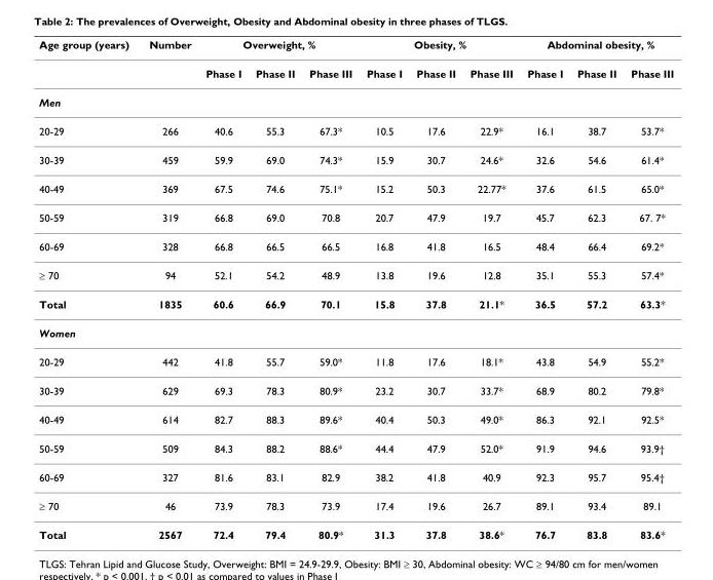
<table><thead><tr><td rowspan="2">Age group (years)</td><td rowspan="2">Number</td><td colspan="3">Overweight, %</td><td colspan="3">Obesity, %</td><td colspan="3">Abdominal obesity, %</td></tr><tr><td>Phase I</td><td>Phase II</td><td>Phase III</td><td>Phase I</td><td>Phase II</td><td>Phase III</td><td>Phase I</td><td>Phase II</td><td>Phase III</td></tr></thead><tbody><tr><td colspan="11">Men</td></tr><tr><td>20-29</td><td>266</td><td>40.6</td><td>55.3</td><td>67.3*</td><td>10.5</td><td>17.6</td><td>22.9*</td><td>16.1</td><td>38.7</td><td>53.7*</td></tr><tr><td>30-39</td><td>459</td><td>59.9</td><td>69.0</td><td>74.3*</td><td>15.9</td><td>30.7</td><td>24.6*</td><td>32.6</td><td>54.6</td><td>61.4*</td></tr><tr><td>40-49</td><td>369</td><td>67.5</td><td>74.6</td><td>75.1*</td><td>15.2</td><td>50.3</td><td>22.77*</td><td>37.6</td><td>61.5</td><td>65.0*</td></tr><tr><td>50-59</td><td>319</td><td>66.8</td><td>69.0</td><td>70.8</td><td>20.7</td><td>47.9</td><td>19.7</td><td>45.7</td><td>62.3</td><td>67. 7*</td></tr><tr><td>60-69</td><td>328</td><td>66.8</td><td>66.5</td><td>66.5</td><td>16.8</td><td>41.8</td><td>16.5</td><td>48.4</td><td>66.4</td><td>69.2*</td></tr><tr><td>≥ 70</td><td>94</td><td>52.1</td><td>54.2</td><td>48.9</td><td>13.8</td><td>19.6</td><td>12.8</td><td>35.1</td><td>55.3</td><td>57.4*</td></tr><tr><td>Total</td><td>1835</td><td>60.6</td><td>66.9</td><td>70.1</td><td>15.8</td><td>37.8</td><td>21.1*</td><td>36.5</td><td>57.2</td><td>63.3*</td></tr><tr><td colspan="11">Women</td></tr><tr><td>20-29</td><td>442</td><td>41.8</td><td>55.7</td><td>59.0*</td><td>11.8</td><td>17.6</td><td>18.1*</td><td>43.8</td><td>54.9</td><td>55.2*</td></tr><tr><td>30-39</td><td>629</td><td>69.3</td><td>78.3</td><td>80.9*</td><td>23.2</td><td>30.7</td><td>33.7*</td><td>68.9</td><td>80.2</td><td>79.8*</td></tr><tr><td>40-49</td><td>614</td><td>82.7</td><td>88.3</td><td>89.6*</td><td>40.4</td><td>50.3</td><td>49.0*</td><td>86.3</td><td>92.1</td><td>92.5*</td></tr><tr><td>50-59</td><td>509</td><td>84.3</td><td>88.2</td><td>88.6*</td><td>44.4</td><td>47.9</td><td>52.0*</td><td>91.9</td><td>94.6</td><td>93.9†</td></tr><tr><td>60-69</td><td>327</td><td>81.6</td><td>83.1</td><td>82.9</td><td>38.2</td><td>41.8</td><td>40.9</td><td>92.3</td><td>95.7</td><td>95.4†</td></tr><tr><td>≥ 70</td><td>46</td><td>73.9</td><td>78.3</td><td>73.9</td><td>17.4</td><td>19.6</td><td>26.7</td><td>89.1</td><td>93.4</td><td>89.1</td></tr><tr><td>Total</td><td>2567</td><td>72.4</td><td>79.4</td><td>80.9*</td><td>31.3</td><td>37.8</td><td>38.6*</td><td>76.7</td><td>83.8</td><td>83.6*</td></tr></tbody></table>